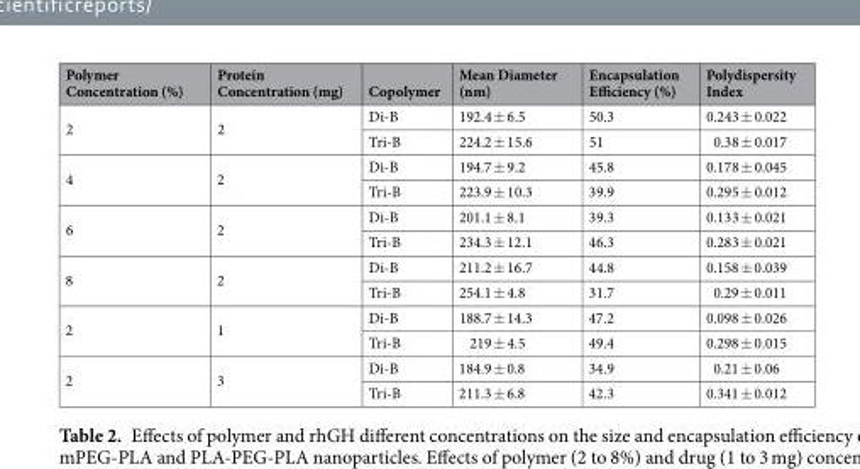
<table><thead><tr><td>Polymer Concentration (%)</td><td>Protein Concentration (mg)</td><td>Copolymer</td><td>Mean Diameter (nm)</td><td>Encapsulation Efficiency (%)</td><td>Polydispersity Index</td></tr></thead><tbody><tr><td rowspan="2">2</td><td rowspan="2">2</td><td>Di-B</td><td>192.4 ± 6.5</td><td>50.3</td><td>0.243 ± 0.022</td></tr><tr><td>Tri-B</td><td>224.2 ± 15.6</td><td>51</td><td>0.38 ± 0.017</td></tr><tr><td rowspan="2">4</td><td rowspan="2">2</td><td>Di-B</td><td>194.7 ± 9.2</td><td>45.8</td><td>0.178 ± 0.045</td></tr><tr><td>Tri-B</td><td>223.9 ± 10.3</td><td>39.9</td><td>0.295 ± 0.012</td></tr><tr><td rowspan="2">6</td><td rowspan="2">2</td><td>Di-B</td><td>201.1 ± 8.1</td><td>39.3</td><td>0.133 ± 0.021</td></tr><tr><td>Tri-B</td><td>234.3 ± 12.1</td><td>46.3</td><td>0.283 ± 0.021</td></tr><tr><td rowspan="2">8</td><td rowspan="2">2</td><td>Di-B</td><td>211.2 ± 16.7</td><td>44.8</td><td>0.158 ± 0.039</td></tr><tr><td>Tri-B</td><td>254.1 ± 4.8</td><td>31.7</td><td>0.29 ± 0.011</td></tr><tr><td rowspan="2">2</td><td rowspan="2">1</td><td>Di-B</td><td>188.7 ± 14.3</td><td>47.2</td><td>0.098 ± 0.026</td></tr><tr><td>Tri-B</td><td>219 ± 4.5</td><td>49.4</td><td>0.298 ± 0.015</td></tr><tr><td rowspan="2">2</td><td rowspan="2">3</td><td>Di-B</td><td>184.9 ± 0.8</td><td>34.9</td><td>0.21 ± 0.06</td></tr><tr><td>Tri-B</td><td>211.3 ± 6.8</td><td>42.3</td><td>0.341 ± 0.012</td></tr></tbody></table>